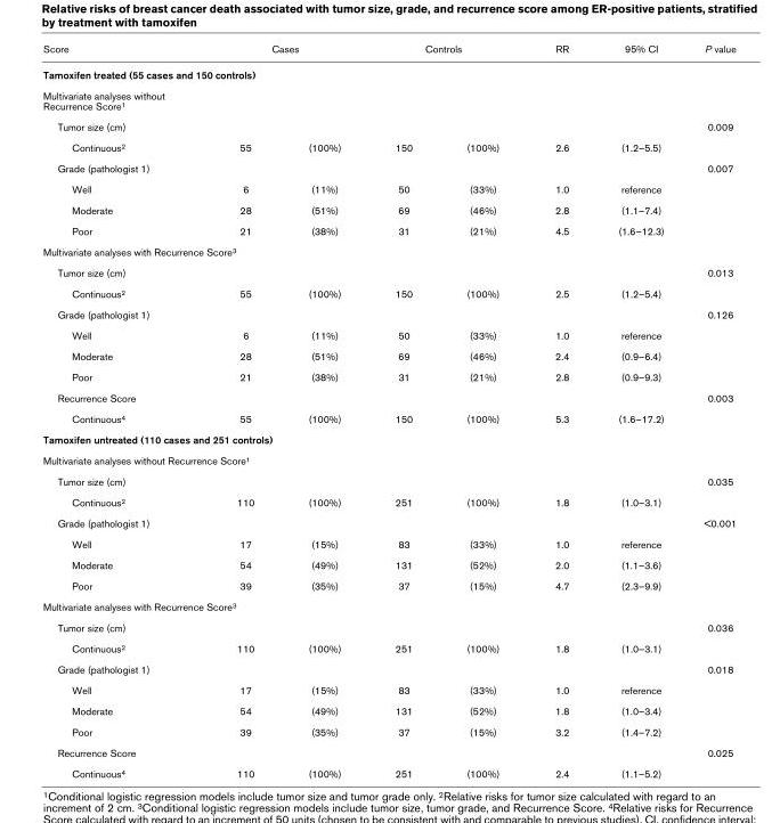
<table><thead><tr><td>Score</td><td colspan="2">Cases</td><td colspan="2">Controls</td><td>RR</td><td>95% CI</td><td>P value</td></tr><tr><td colspan="8">Tamoxifen treated (55 cases and 150 controls)</td></tr><tr><td>Multivariate analyses without Recurrence Score1</td><td></td><td></td><td></td><td></td><td></td><td></td><td></td></tr></thead><tbody><tr><td>Tumor size (cm)</td><td></td><td></td><td></td><td></td><td></td><td></td><td>0.009</td></tr><tr><td>Continuous2</td><td>55</td><td>(100%)</td><td>150</td><td>(100%)</td><td>2.6</td><td>(1.2–5.5)</td><td></td></tr><tr><td>Grade (pathologist 1)</td><td></td><td></td><td></td><td></td><td></td><td></td><td>0.007</td></tr><tr><td>Well</td><td>6</td><td>(11%)</td><td>50</td><td>(33%)</td><td>1.0</td><td>reference</td><td></td></tr><tr><td>Moderate</td><td>28</td><td>(51%)</td><td>69</td><td>(46%)</td><td>2.8</td><td>(1.1–7.4)</td><td></td></tr><tr><td>Poor</td><td>21</td><td>(38%)</td><td>31</td><td>(21%)</td><td>4.5</td><td>(1.6–12.3)</td><td></td></tr><tr><td colspan="8">Multivariate analyses with Recurrence Score3</td></tr><tr><td>Tumor size (cm)</td><td></td><td></td><td></td><td></td><td></td><td></td><td>0.013</td></tr><tr><td>Continuous2</td><td>55</td><td>(100%)</td><td>150</td><td>(100%)</td><td>2.5</td><td>(1.2–5.4)</td><td></td></tr><tr><td>Grade (pathologist 1)</td><td></td><td></td><td></td><td></td><td></td><td></td><td>0.126</td></tr><tr><td>Well</td><td>6</td><td>(11%)</td><td>50</td><td>(33%)</td><td>1.0</td><td>reference</td><td></td></tr><tr><td>Moderate</td><td>28</td><td>(51%)</td><td>69</td><td>(46%)</td><td>2.4</td><td>(0.9–6.4)</td><td></td></tr><tr><td>Poor</td><td>21</td><td>(38%)</td><td>31</td><td>(21%)</td><td>2.8</td><td>(0.9–9.3)</td><td></td></tr><tr><td>Recurrence Score</td><td></td><td></td><td></td><td></td><td></td><td></td><td>0.003</td></tr><tr><td>Continuous4</td><td>55</td><td>(100%)</td><td>150</td><td>(100%)</td><td>5.3</td><td>(1.6–17.2)</td><td></td></tr><tr><td colspan="8">Tamoxifen untreated (110 cases and 251 controls)</td></tr><tr><td colspan="8">Multivariate analyses without Recurrence Score1</td></tr><tr><td>Tumor size (cm)</td><td></td><td></td><td></td><td></td><td></td><td></td><td>0.035</td></tr><tr><td>Continuous2</td><td>110</td><td>(100%)</td><td>251</td><td>(100%)</td><td>1.8</td><td>(1.0–3.1)</td><td></td></tr><tr><td>Grade (pathologist 1)</td><td></td><td></td><td></td><td></td><td></td><td></td><td>&lt;0.001</td></tr><tr><td>Well</td><td>17</td><td>(15%)</td><td>83</td><td>(33%)</td><td>1.0</td><td>reference</td><td></td></tr><tr><td>Moderate</td><td>54</td><td>(49%)</td><td>131</td><td>(52%)</td><td>2.0</td><td>(1.1–3.6)</td><td></td></tr><tr><td>Poor</td><td>39</td><td>(35%)</td><td>37</td><td>(15%)</td><td>4.7</td><td>(2.3–9.9)</td><td></td></tr><tr><td colspan="8">Multivariate analyses with Recurrence Score3</td></tr><tr><td>Tumor size (cm)</td><td></td><td></td><td></td><td></td><td></td><td></td><td>0.036</td></tr><tr><td>Continuous2</td><td>110</td><td>(100%)</td><td>251</td><td>(100%)</td><td>1.8</td><td>(1.0–3.1)</td><td></td></tr><tr><td>Grade (pathologist 1)</td><td></td><td></td><td></td><td></td><td></td><td></td><td>0.018</td></tr><tr><td>Well</td><td>17</td><td>(15%)</td><td>83</td><td>(33%)</td><td>1.0</td><td>reference</td><td></td></tr><tr><td>Moderate</td><td>54</td><td>(49%)</td><td>131</td><td>(52%)</td><td>1.8</td><td>(1.0–3.4)</td><td></td></tr><tr><td>Poor</td><td>39</td><td>(35%)</td><td>37</td><td>(15%)</td><td>3.2</td><td>(1.4–7.2)</td><td></td></tr><tr><td>Recurrence Score</td><td></td><td></td><td></td><td></td><td></td><td></td><td>0.025</td></tr><tr><td>Continuous4</td><td>110</td><td>(100%)</td><td>251</td><td>(100%)</td><td>2.4</td><td>(1.1–5.2)</td><td></td></tr></tbody></table>